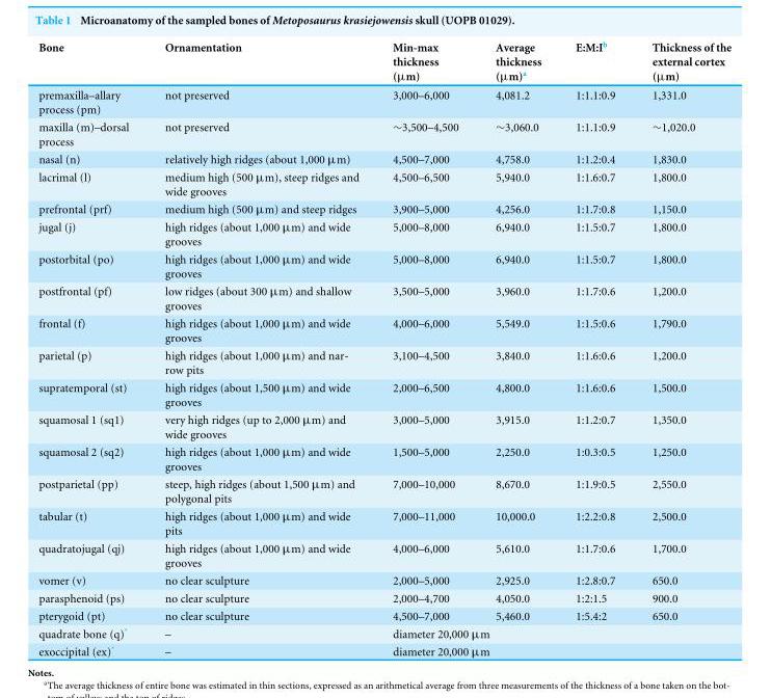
<table><thead><tr><td>Bone</td><td>Ornamentation</td><td>Min-max thickness (µm)</td><td>Average thickness (µm)<sup>a</sup></td><td>E:M:I<sup>b</sup></td><td>Thickness of the external cortex (µm)</td></tr></thead><tbody><tr><td>premaxilla–allary process (pm)</td><td>not preserved</td><td>3,000–6,000</td><td>4,081.2</td><td>1:1.1:0.9</td><td>1,331.0</td></tr><tr><td>maxilla (m)–dorsal process</td><td>not preserved</td><td>∼3,500–4,500</td><td>∼3,060.0</td><td>1:1.1:0.9</td><td>∼1,020.0</td></tr><tr><td>nasal (n)</td><td>relatively high ridges (about 1,000 µm)</td><td>4,500–7,000</td><td>4,758.0</td><td>1:1.2:0.4</td><td>1,830.0</td></tr><tr><td>lacrimal (l)</td><td>medium high (500 µm), steep ridges and wide grooves</td><td>4,500–6,500</td><td>5,940.0</td><td>1:1.6:0.7</td><td>1,800.0</td></tr><tr><td>prefrontal (prf)</td><td>medium high (500 µm) and steep ridges</td><td>3,900–5,000</td><td>4,256.0</td><td>1:1.7:0.8</td><td>1,150.0</td></tr><tr><td>jugal (j)</td><td>high ridges (about 1,000 µm) and wide grooves</td><td>5,000–8,000</td><td>6,940.0</td><td>1:1.5:0.7</td><td>1,800.0</td></tr><tr><td>postorbital (po)</td><td>high ridges (about 1,000 µm) and wide grooves</td><td>5,000–8,000</td><td>6,940.0</td><td>1:1.5:0.7</td><td>1,800.0</td></tr><tr><td>postfrontal (pf)</td><td>low ridges (about 300 µm) and shallow grooves</td><td>3,500–5,000</td><td>3,960.0</td><td>1:1.7:0.6</td><td>1,200.0</td></tr><tr><td>frontal (f)</td><td>high ridges (about 1,000 µm) and wide grooves</td><td>4,000–6,000</td><td>5,549.0</td><td>1:1.5:0.6</td><td>1,790.0</td></tr><tr><td>parietal (p)</td><td>high ridges (about 1,000 µm) and nar- row pits</td><td>3,100–4,500</td><td>3,840.0</td><td>1:1.6:0.6</td><td>1,200.0</td></tr><tr><td>supratemporal (st)</td><td>high ridges (about 1,500 µm) and wide grooves</td><td>2,000–6,500</td><td>4,800.0</td><td>1:1.6:0.6</td><td>1,500.0</td></tr><tr><td>squamosal 1 (sq1)</td><td>very high ridges (up to 2,000 µm) and wide grooves</td><td>3,000–5,000</td><td>3,915.0</td><td>1:1.2:0.7</td><td>1,350.0</td></tr><tr><td>squamosal 2 (sq2)</td><td>high ridges (about 1,000 µm) and wide grooves</td><td>1,500–5,000</td><td>2,250.0</td><td>1:0.3:0.5</td><td>1,250.0</td></tr><tr><td>postparietal (pp)</td><td>steep, high ridges (about 1,500 µm) and polygonal pits</td><td>7,000–10,000</td><td>8,670.0</td><td>1:1.9:0.5</td><td>2,550.0</td></tr><tr><td>tabular (t)</td><td>high ridges (about 1,000 µm) and wide pits</td><td>7,000–11,000</td><td>10,000.0</td><td>1:2.2:0.8</td><td>2,500.0</td></tr><tr><td>quadratojugal (qj)</td><td>high ridges (about 1,000 µm) and wide grooves</td><td>4,000–6,000</td><td>5,610.0</td><td>1:1.7:0.6</td><td>1,700.0</td></tr><tr><td>vomer (v)</td><td>no clear sculpture</td><td>2,000–5,000</td><td>2,925.0</td><td>1:2.8:0.7</td><td>650.0</td></tr><tr><td>parasphenoid (ps)</td><td>no clear sculpture</td><td>2,000–4,700</td><td>4,050.0</td><td>1:2:1.5</td><td>900.0</td></tr><tr><td>pterygoid (pt)</td><td>no clear sculpture</td><td>4,500–7,000</td><td>5,460.0</td><td>1:5.4:2</td><td>650.0</td></tr><tr><td>quadrate bone (q)*</td><td>–</td><td colspan="4">diameter 20,000 µm</td></tr><tr><td>exoccipital (ex)*</td><td>–</td><td colspan="4">diameter 20,000 µm</td></tr></tbody></table>